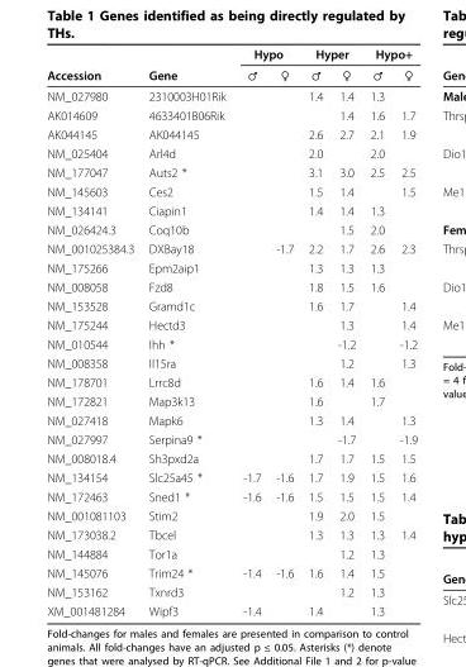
<table><thead><tr><td rowspan="2">Accession</td><td rowspan="2">Gene</td><td colspan="2">Hypo</td><td colspan="2">Hyper</td><td colspan="2">Hypo+</td></tr><tr><td>♂</td><td>♀</td><td>♂</td><td>♀</td><td>♂</td><td>♀</td></tr></thead><tbody><tr><td>NM_027980</td><td>2310003H01Rik</td><td></td><td></td><td>1.4</td><td>1.4</td><td>1.3</td><td></td></tr><tr><td>AK014609</td><td>4633401B06Rik</td><td></td><td></td><td></td><td>1.4</td><td>1.6</td><td>1.7</td></tr><tr><td>AK044145</td><td>AK044145</td><td></td><td></td><td>2.6</td><td>2.7</td><td>2.1</td><td>1.9</td></tr><tr><td>NM_025404</td><td>Arl4d</td><td></td><td></td><td>2.0</td><td></td><td>2.0</td><td></td></tr><tr><td>NM_177047</td><td>Auts2 *</td><td></td><td></td><td>3.1</td><td>3.0</td><td>2.5</td><td>2.5</td></tr><tr><td>NM_145603</td><td>Ces2</td><td></td><td></td><td>1.5</td><td>1.4</td><td></td><td>1.5</td></tr><tr><td>NM_134141</td><td>Ciapin1</td><td></td><td></td><td>1.4</td><td>1.4</td><td>1.3</td><td></td></tr><tr><td>NM_026424.3</td><td>Coq10b</td><td></td><td></td><td></td><td>1.5</td><td>2.0</td><td></td></tr><tr><td>NM_001025384.3</td><td>DXBay18</td><td></td><td>-1.7</td><td>2.2</td><td>1.7</td><td>2.6</td><td>2.3</td></tr><tr><td>NM_175266</td><td>Epm2aip1</td><td></td><td></td><td>1.3</td><td>1.3</td><td>1.3</td><td></td></tr><tr><td>NM_008058</td><td>Fzd8</td><td></td><td></td><td>1.8</td><td>1.5</td><td>1.6</td><td></td></tr><tr><td>NM_153528</td><td>Gramd1c</td><td></td><td></td><td>1.6</td><td>1.7</td><td></td><td>1.4</td></tr><tr><td>NM_175244</td><td>Hectd3</td><td></td><td></td><td></td><td>1.3</td><td></td><td>1.4</td></tr><tr><td>NM_010544</td><td>Ihh *</td><td></td><td></td><td></td><td>-1.2</td><td></td><td>-1.2</td></tr><tr><td>NM_008358</td><td>Il15ra</td><td></td><td></td><td></td><td>1.2</td><td></td><td>1.3</td></tr><tr><td>NM_178701</td><td>Lrrc8d</td><td></td><td></td><td>1.6</td><td>1.4</td><td>1.6</td><td></td></tr><tr><td>NM_172821</td><td>Map3k13</td><td></td><td></td><td>1.6</td><td></td><td>1.7</td><td></td></tr><tr><td>NM_027418</td><td>Mapk6</td><td></td><td></td><td>1.3</td><td>1.4</td><td></td><td>1.3</td></tr><tr><td>NM_027997</td><td>Serpina9 *</td><td></td><td></td><td></td><td>-1.7</td><td></td><td>-1.9</td></tr><tr><td>NM_008018.4</td><td>Sh3pxd2a</td><td></td><td></td><td>1.7</td><td>1.7</td><td>1.5</td><td>1.5</td></tr><tr><td>NM_134154</td><td>Slc25a45 *</td><td>-1.7</td><td>-1.6</td><td>1.7</td><td>1.9</td><td>1.5</td><td>1.6</td></tr><tr><td>NM_172463</td><td>Sned1 *</td><td>-1.6</td><td>-1.6</td><td>1.5</td><td>1.5</td><td>1.5</td><td>1.4</td></tr><tr><td>NM_001081103</td><td>Stim2</td><td></td><td></td><td>1.9</td><td>2.0</td><td>1.5</td><td></td></tr><tr><td>NM_173038.2</td><td>Tbcel</td><td></td><td></td><td>1.3</td><td>1.3</td><td>1.3</td><td>1.4</td></tr><tr><td>NM_144884</td><td>Tor1a</td><td></td><td></td><td></td><td>1.2</td><td>1.3</td><td></td></tr><tr><td>NM_145076</td><td>Trim24 *</td><td>-1.4</td><td>-1.6</td><td>1.6</td><td>1.4</td><td>1.5</td><td></td></tr><tr><td>NM_153162</td><td>Txnrd3</td><td></td><td></td><td></td><td>1.2</td><td>1.3</td><td></td></tr><tr><td>XM_001481284</td><td>Wipf3</td><td>-1.4</td><td></td><td>1.4</td><td></td><td>1.3</td><td></td></tr></tbody></table>